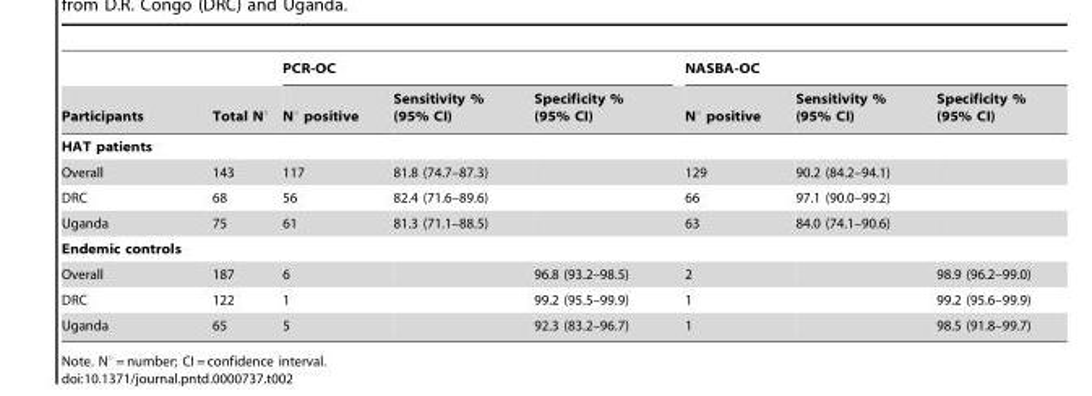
<table><thead><tr><td rowspan="2">Participants</td><td rowspan="2">Total N°</td><td colspan="3">PCR-OC</td><td colspan="3">NASBA-OC</td></tr><tr><td>N° positive</td><td>Sensitivity % (95% CI)</td><td>Specificity % (95% CI)</td><td>N° positive</td><td>Sensitivity % (95% CI)</td><td>Specificity % (95% CI)</td></tr></thead><tbody><tr><td colspan="8">HAT patients</td></tr><tr><td>Overall</td><td>143</td><td>117</td><td>81.8 (74.7–87.3)</td><td></td><td>129</td><td>90.2 (84.2–94.1)</td><td></td></tr><tr><td>DRC</td><td>68</td><td>56</td><td>82.4 (71.6–89.6)</td><td></td><td>66</td><td>97.1 (90.0–99.2)</td><td></td></tr><tr><td>Uganda</td><td>75</td><td>61</td><td>81.3 (71.1–88.5)</td><td></td><td>63</td><td>84.0 (74.1–90.6)</td><td></td></tr><tr><td colspan="8">Endemic controls</td></tr><tr><td>Overall</td><td>187</td><td>6</td><td></td><td>96.8 (93.2–98.5)</td><td>2</td><td></td><td>98.9 (96.2–99.0)</td></tr><tr><td>DRC</td><td>122</td><td>1</td><td></td><td>99.2 (95.5–99.9)</td><td>1</td><td></td><td>99.2 (95.6–99.9)</td></tr><tr><td>Uganda</td><td>65</td><td>5</td><td></td><td>92.3 (83.2–96.7)</td><td>1</td><td></td><td>98.5 (91.8–99.7)</td></tr></tbody></table>